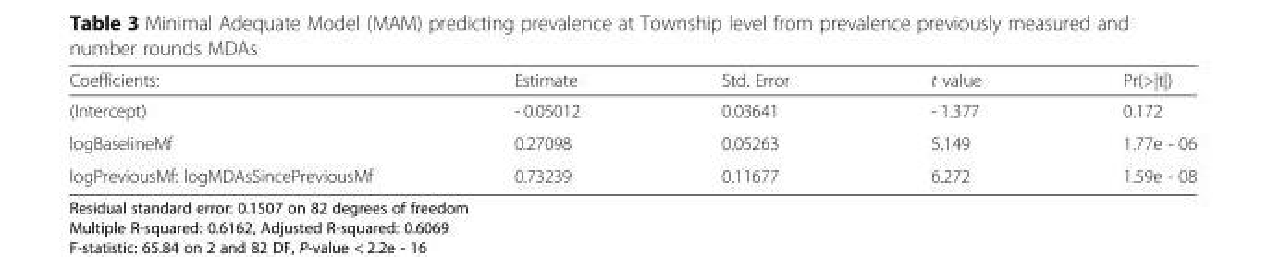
<table><thead><tr><td>Coefficients:</td><td>Estimate</td><td>Std. Error</td><td>t value</td><td>Pr(&gt;|t|)</td></tr></thead><tbody><tr><td>(Intercept)</td><td>- 0.05012</td><td>0.03641</td><td>- 1.377</td><td>0.172</td></tr><tr><td>logBaselineMf</td><td>0.27098</td><td>0.05263</td><td>5.149</td><td>1.77e - 06</td></tr><tr><td>logPreviousMf: logMDAsSincePreviousMf</td><td>0.73239</td><td>0.11677</td><td>6.272</td><td>1.59e - 08</td></tr></tbody></table>